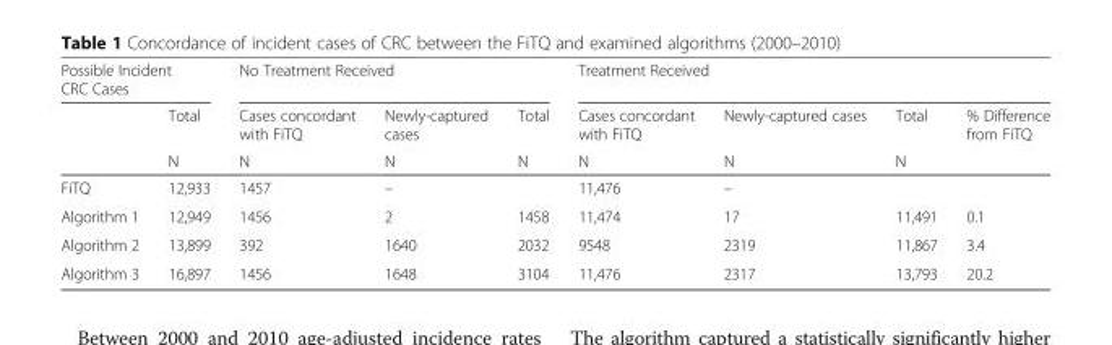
<table><thead><tr><td colspan="2">Possible Incident CRC Cases</td><td colspan="3">No Treatment Received</td><td colspan="4">Treatment Received</td></tr><tr><td rowspan="2"></td><td rowspan="2">Total N</td><td rowspan="2">Cases concordant with FiTQ N</td><td rowspan="2">Newly-captured cases N</td><td rowspan="2">Total N</td><td rowspan="2">Cases concordant with FiTQ N</td><td rowspan="2">Newly-captured cases N</td><td rowspan="2">Total N</td><td rowspan="2">% Difference from FiTQ</td></tr><tr></tr></thead><tbody><tr><td>FiTQ</td><td>12,933</td><td>1457</td><td>–</td><td></td><td>11,476</td><td>–</td><td></td><td></td></tr><tr><td>Algorithm 1</td><td>12,949</td><td>1456</td><td>2</td><td>1458</td><td>11,474</td><td>17</td><td>11,491</td><td>0.1</td></tr><tr><td>Algorithm 2</td><td>13,899</td><td>392</td><td>1640</td><td>2032</td><td>9548</td><td>2319</td><td>11,867</td><td>3.4</td></tr><tr><td>Algorithm 3</td><td>16,897</td><td>1456</td><td>1648</td><td>3104</td><td>11,476</td><td>2317</td><td>13,793</td><td>20.2</td></tr></tbody></table>